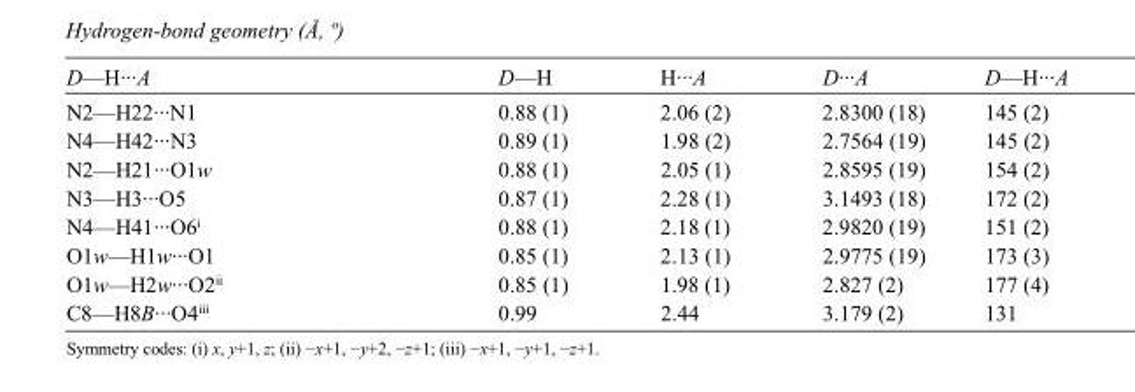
<table><tbody><tr><td>D—H···A</td><td>D—H</td><td>H···A</td><td>D···A</td><td>D—H···A</td></tr><tr><td>N2—H22···N1</td><td>0.88 (1)</td><td>2.06 (2)</td><td>2.8300 (18)</td><td>145 (2)</td></tr><tr><td>N4—H42···N3</td><td>0.89 (1)</td><td>1.98 (2)</td><td>2.7564 (19)</td><td>145 (2)</td></tr><tr><td>N2—H21···O1w</td><td>0.88 (1)</td><td>2.05 (1)</td><td>2.8595 (19)</td><td>154 (2)</td></tr><tr><td>N3—H3···O5</td><td>0.87 (1)</td><td>2.28 (1)</td><td>3.1493 (18)</td><td>172 (2)</td></tr><tr><td>N4—H41···O6<sup>i</sup></td><td>0.88 (1)</td><td>2.18 (1)</td><td>2.9820 (19)</td><td>151 (2)</td></tr><tr><td>O1w—H1w···O1</td><td>0.85 (1)</td><td>2.13 (1)</td><td>2.9775 (19)</td><td>173 (3)</td></tr><tr><td>O1w—H2w···O2<sup>ii</sup></td><td>0.85 (1)</td><td>1.98 (1)</td><td>2.827 (2)</td><td>177 (4)</td></tr><tr><td>C8—H8B···O4<sup>iii</sup></td><td>0.99</td><td>2.44</td><td>3.179 (2)</td><td>131</td></tr></tbody></table>